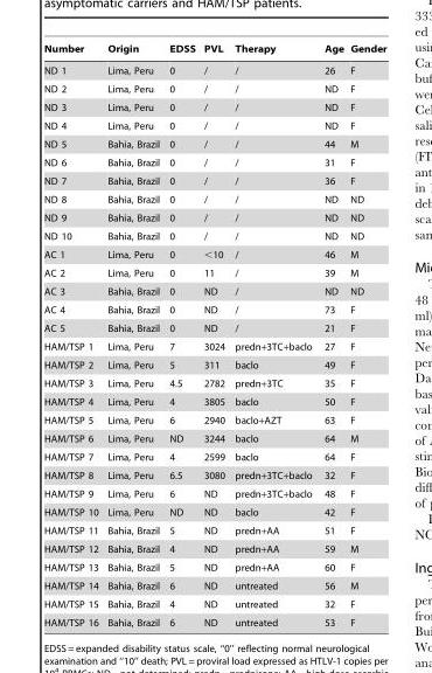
<table><thead><tr><td>Number</td><td>Origin</td><td>EDSS</td><td>PVL</td><td>Therapy</td><td>Age</td><td>Gender</td></tr></thead><tbody><tr><td>ND 1</td><td>Lima, Peru</td><td>0</td><td>/</td><td>/</td><td>26</td><td>F</td></tr><tr><td>ND 2</td><td>Lima, Peru</td><td>0</td><td>/</td><td>/</td><td>ND</td><td>F</td></tr><tr><td>ND 3</td><td>Lima, Peru</td><td>0</td><td>/</td><td>/</td><td>ND</td><td>F</td></tr><tr><td>ND 4</td><td>Lima, Peru</td><td>0</td><td>/</td><td>/</td><td>ND</td><td>F</td></tr><tr><td>ND 5</td><td>Bahia, Brazil</td><td>0</td><td>/</td><td>/</td><td>44</td><td>M</td></tr><tr><td>ND 6</td><td>Bahia, Brazil</td><td>0</td><td>/</td><td>/</td><td>31</td><td>F</td></tr><tr><td>ND 7</td><td>Bahia, Brazil</td><td>0</td><td>/</td><td>/</td><td>36</td><td>F</td></tr><tr><td>ND 8</td><td>Bahia, Brazil</td><td>0</td><td>/</td><td>/</td><td>ND</td><td>ND</td></tr><tr><td>ND 9</td><td>Bahia, Brazil</td><td>0</td><td>/</td><td>/</td><td>ND</td><td>ND</td></tr><tr><td>ND 10</td><td>Bahia, Brazil</td><td>0</td><td>/</td><td>/</td><td>ND</td><td>ND</td></tr><tr><td>AC 1</td><td>Lima, Peru</td><td>0</td><td>&lt;10</td><td>/</td><td>46</td><td>M</td></tr><tr><td>AC 2</td><td>Lima, Peru</td><td>0</td><td>11</td><td>/</td><td>39</td><td>M</td></tr><tr><td>AC 3</td><td>Bahia, Brazil</td><td>0</td><td>ND</td><td>/</td><td>ND</td><td>ND</td></tr><tr><td>AC 4</td><td>Bahia, Brazil</td><td>0</td><td>ND</td><td>/</td><td>73</td><td>F</td></tr><tr><td>AC 5</td><td>Bahia, Brazil</td><td>0</td><td>ND</td><td>/</td><td>21</td><td>F</td></tr><tr><td>HAM/TSP 1</td><td>Lima, Peru</td><td>7</td><td>3024</td><td>predn+3TC+baclo</td><td>27</td><td>F</td></tr><tr><td>HAM/TSP 2</td><td>Lima, Peru</td><td>5</td><td>311</td><td>baclo</td><td>49</td><td>F</td></tr><tr><td>HAM/TSP 3</td><td>Lima, Peru</td><td>4.5</td><td>2782</td><td>predn+3TC</td><td>35</td><td>F</td></tr><tr><td>HAM/TSP 4</td><td>Lima, Peru</td><td>4</td><td>3805</td><td>baclo</td><td>50</td><td>F</td></tr><tr><td>HAM/TSP 5</td><td>Lima, Peru</td><td>6</td><td>2940</td><td>baclo+AZT</td><td>63</td><td>F</td></tr><tr><td>HAM/TSP 6</td><td>Lima, Peru</td><td>ND</td><td>3244</td><td>baclo</td><td>64</td><td>M</td></tr><tr><td>HAM/TSP 7</td><td>Lima, Peru</td><td>4</td><td>2599</td><td>baclo</td><td>64</td><td>F</td></tr><tr><td>HAM/TSP 8</td><td>Lima, Peru</td><td>6.5</td><td>3080</td><td>predn+3TC+baclo</td><td>32</td><td>F</td></tr><tr><td>HAM/TSP 9</td><td>Lima, Peru</td><td>6</td><td>ND</td><td>predn+3TC+baclo</td><td>48</td><td>F</td></tr><tr><td>HAM/TSP 10</td><td>Lima, Peru</td><td>ND</td><td>ND</td><td>baclo</td><td>42</td><td>F</td></tr><tr><td>HAM/TSP 11</td><td>Bahia, Brazil</td><td>5</td><td>ND</td><td>predn+AA</td><td>51</td><td>F</td></tr><tr><td>HAM/TSP 12</td><td>Bahia, Brazil</td><td>4</td><td>ND</td><td>predn+AA</td><td>59</td><td>M</td></tr><tr><td>HAM/TSP 13</td><td>Bahia, Brazil</td><td>5</td><td>ND</td><td>predn+AA</td><td>60</td><td>F</td></tr><tr><td>HAM/TSP 14</td><td>Bahia, Brazil</td><td>6</td><td>ND</td><td>untreated</td><td>56</td><td>M</td></tr><tr><td>HAM/TSP 15</td><td>Bahia, Brazil</td><td>4</td><td>ND</td><td>untreated</td><td>32</td><td>F</td></tr><tr><td>HAM/TSP 16</td><td>Bahia, Brazil</td><td>6</td><td>ND</td><td>untreated</td><td>53</td><td>F</td></tr></tbody></table>